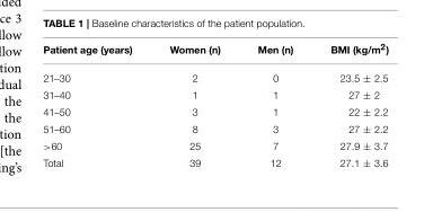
<table><thead><tr><td>Patient age (years)</td><td>Women (n)</td><td>Men (n)</td><td>BMI (kg/m<sup>2</sup>)</td></tr></thead><tbody><tr><td>21–30</td><td>2</td><td>0</td><td>23.5 ± 2.5</td></tr><tr><td>31–40</td><td>1</td><td>1</td><td>27 ± 2</td></tr><tr><td>41–50</td><td>3</td><td>1</td><td>22 ± 2.2</td></tr><tr><td>51–60</td><td>8</td><td>3</td><td>27 ± 2.2</td></tr><tr><td>&gt;60</td><td>25</td><td>7</td><td>27.9 ± 3.7</td></tr><tr><td>Total</td><td>39</td><td>12</td><td>27.1 ± 3.6</td></tr></tbody></table>